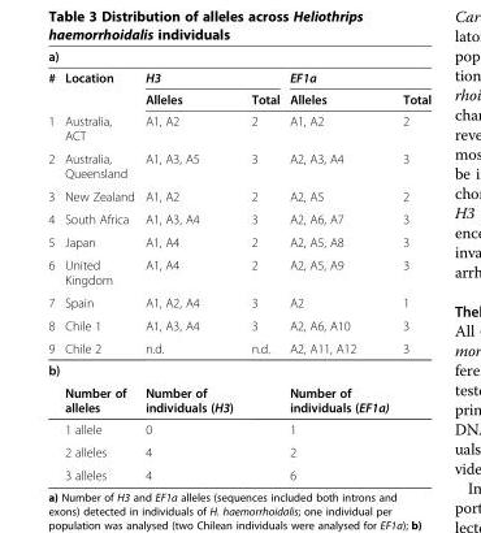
<table><thead><tr><td colspan="6">a)</td></tr><tr><td rowspan="2">#</td><td rowspan="2">Location</td><td colspan="2">H3</td><td colspan="2">EF1a</td></tr><tr><td>Alleles</td><td>Total</td><td>Alleles</td><td>Total</td></tr></thead><tbody><tr><td>1</td><td>Australia, ACT</td><td>A1, A2</td><td>2</td><td>A1, A2</td><td>2</td></tr><tr><td>2</td><td>Australia, Queensland</td><td>A1, A3, A5</td><td>3</td><td>A2, A3, A4</td><td>3</td></tr><tr><td>3</td><td>New Zealand</td><td>A1, A2</td><td>2</td><td>A2, A5</td><td>2</td></tr><tr><td>4</td><td>South Africa</td><td>A1, A3, A4</td><td>3</td><td>A2, A6, A7</td><td>3</td></tr><tr><td>5</td><td>Japan</td><td>A1, A4</td><td>2</td><td>A2, A5, A8</td><td>3</td></tr><tr><td>6</td><td>United Kingdom</td><td>A1, A4</td><td>2</td><td>A2, A5, A9</td><td>3</td></tr><tr><td>7</td><td>Spain</td><td>A1, A2, A4</td><td>3</td><td>A2</td><td>1</td></tr><tr><td>8</td><td>Chile 1</td><td>A1, A3, A4</td><td>3</td><td>A2, A6, A10</td><td>3</td></tr><tr><td>9</td><td>Chile 2</td><td>n.d.</td><td>n.d.</td><td>A2, A11, A12</td><td>3</td></tr><tr><td colspan="6">b)</td></tr><tr><td></td><td>Number of alleles</td><td>Number of individuals (H3)</td><td></td><td>Number of individuals (EF1a)</td><td></td></tr><tr><td></td><td>1 allele</td><td>0</td><td></td><td>1</td><td></td></tr><tr><td></td><td>2 alleles</td><td>4</td><td></td><td>2</td><td></td></tr><tr><td></td><td>3 alleles</td><td>4</td><td></td><td>6</td><td></td></tr></tbody></table>